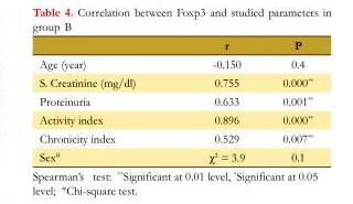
<table><thead><tr><td></td><td>r</td><td>P</td></tr></thead><tbody><tr><td>Age (year)</td><td>-0.150</td><td>0.4</td></tr><tr><td>S. Creatinine (mg/dl)</td><td>0.755</td><td>0.000**</td></tr><tr><td>Proteinuria</td><td>0.633</td><td>0.001**</td></tr><tr><td>Activity index</td><td>0.896</td><td>0.000**</td></tr><tr><td>Chronicity index</td><td>0.529</td><td>0.007**</td></tr><tr><td>Sex<sup>#</sup></td><td>χ<sup>2</sup> = 3.9</td><td>0.1</td></tr></tbody></table>